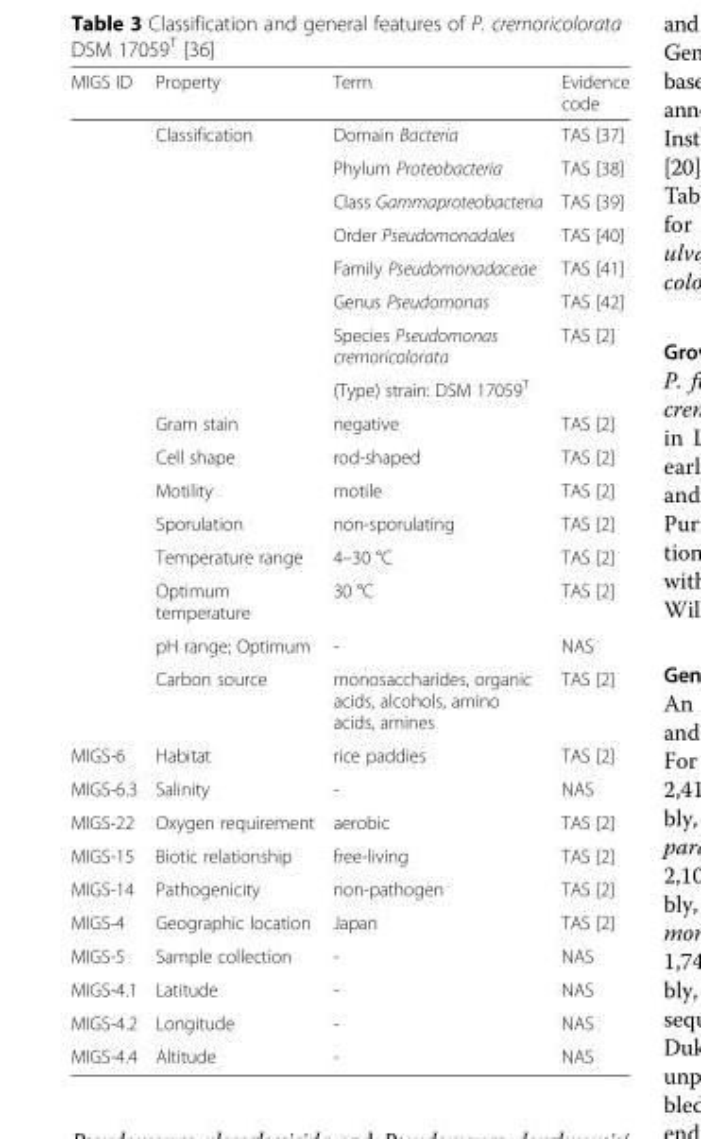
<table><thead><tr><td>MIGS ID</td><td>Property</td><td>Term</td><td>Evidence code</td></tr></thead><tbody><tr><td rowspan="16"></td><td rowspan="8">Classification</td><td>Domain Bacteria</td><td>TAS [37]</td></tr><tr><td>Phylum Proteobacteria</td><td>TAS [38]</td></tr><tr><td>Class Gammaproteobacteria</td><td>TAS [39]</td></tr><tr><td>Order Pseudomonadales</td><td>TAS [40]</td></tr><tr><td>Family Pseudomonadaceae</td><td>TAS [41]</td></tr><tr><td>Genus Pseudomonas</td><td>TAS [42]</td></tr><tr><td>Species Pseudomonas cremoricolorata</td><td>TAS [2]</td></tr><tr><td>(Type) strain: DSM 17059<sup>T</sup></td><td></td></tr><tr><td>Gram stain</td><td>negative</td><td>TAS [2]</td></tr><tr><td>Cell shape</td><td>rod-shaped</td><td>TAS [2]</td></tr><tr><td>Motility</td><td>motile</td><td>TAS [2]</td></tr><tr><td>Sporulation</td><td>non-sporulating</td><td>TAS [2]</td></tr><tr><td>Temperature range</td><td>4–30 °C</td><td>TAS [2]</td></tr><tr><td>Optimum temperature</td><td>30 °C</td><td>TAS [2]</td></tr><tr><td>pH range; Optimum</td><td>-</td><td>NAS</td></tr><tr><td>Carbon source</td><td>monosaccharides, organic acids, alcohols, amino acids, amines</td><td>TAS [2]</td></tr><tr><td>MIGS-6</td><td>Habitat</td><td>rice paddies</td><td>TAS [2]</td></tr><tr><td>MIGS-6.3</td><td>Salinity</td><td>-</td><td>NAS</td></tr><tr><td>MIGS-22</td><td>Oxygen requirement</td><td>aerobic</td><td>TAS [2]</td></tr><tr><td>MIGS-15</td><td>Biotic relationship</td><td>free-living</td><td>TAS [2]</td></tr><tr><td>MIGS-14</td><td>Pathogenicity</td><td>non-pathogen</td><td>TAS [2]</td></tr><tr><td>MIGS-4</td><td>Geographic location</td><td>Japan</td><td>TAS [2]</td></tr><tr><td>MIGS-5</td><td>Sample collection</td><td>-</td><td>NAS</td></tr><tr><td>MIGS-4.1</td><td>Latitude</td><td>-</td><td>NAS</td></tr><tr><td>MIGS-4.2</td><td>Longitude</td><td>-</td><td>NAS</td></tr><tr><td>MIGS-4.4</td><td>Altitude</td><td>-</td><td>NAS</td></tr></tbody></table>